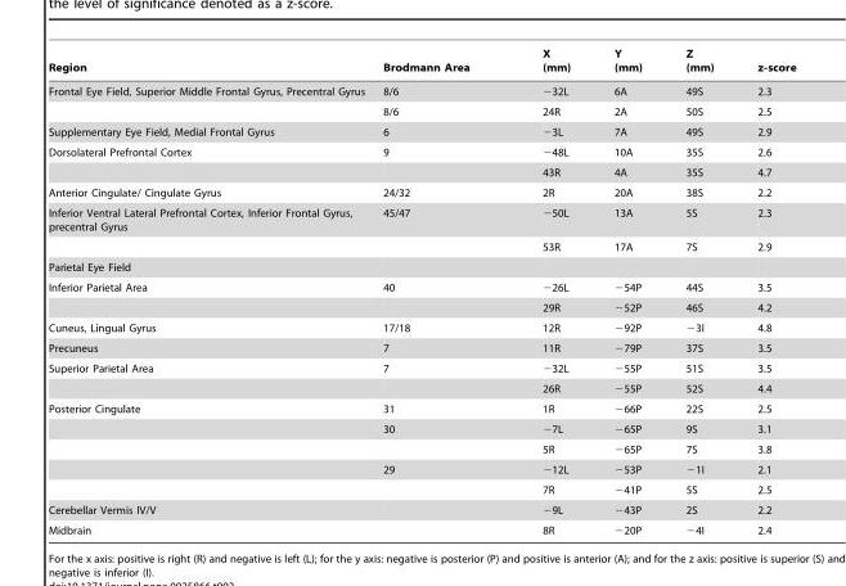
<table><thead><tr><td>Region</td><td>Brodmann Area</td><td>X (mm)</td><td>Y (mm)</td><td>Z (mm)</td><td>z-score</td></tr></thead><tbody><tr><td rowspan="2">Frontal Eye Field, Superior Middle Frontal Gyrus, Precentral Gyrus</td><td>8/6</td><td>−32L</td><td>6A</td><td>49S</td><td>2.3</td></tr><tr><td>8/6</td><td>24R</td><td>2A</td><td>50S</td><td>2.5</td></tr><tr><td>Supplementary Eye Field, Medial Frontal Gyrus</td><td>6</td><td>−3L</td><td>7A</td><td>49S</td><td>2.9</td></tr><tr><td rowspan="2">Dorsolateral Prefrontal Cortex</td><td>9</td><td>−48L</td><td>10A</td><td>35S</td><td>2.6</td></tr><tr><td></td><td>43R</td><td>4A</td><td>35S</td><td>4.7</td></tr><tr><td>Anterior Cingulate/ Cingulate Gyrus</td><td>24/32</td><td>2R</td><td>20A</td><td>38S</td><td>2.2</td></tr><tr><td rowspan="2">Inferior Ventral Lateral Prefrontal Cortex, Inferior Frontal Gyrus, precentral Gyrus</td><td>45/47</td><td>−50L</td><td>13A</td><td>5S</td><td>2.3</td></tr><tr><td></td><td>53R</td><td>17A</td><td>7S</td><td>2.9</td></tr><tr><td colspan="6">Parietal Eye Field</td></tr><tr><td rowspan="2">Inferior Parietal Area</td><td>40</td><td>−26L</td><td>−54P</td><td>44S</td><td>3.5</td></tr><tr><td></td><td>29R</td><td>−52P</td><td>46S</td><td>4.2</td></tr><tr><td>Cuneus, Lingual Gyrus</td><td>17/18</td><td>12R</td><td>−92P</td><td>−3I</td><td>4.8</td></tr><tr><td>Precuneus</td><td>7</td><td>11R</td><td>−79P</td><td>37S</td><td>3.5</td></tr><tr><td rowspan="2">Superior Parietal Area</td><td>7</td><td>−32L</td><td>−55P</td><td>51S</td><td>3.5</td></tr><tr><td></td><td>26R</td><td>−55P</td><td>52S</td><td>4.4</td></tr><tr><td rowspan="5">Posterior Cingulate</td><td>31</td><td>1R</td><td>−66P</td><td>22S</td><td>2.5</td></tr><tr><td>30</td><td>−7L</td><td>−65P</td><td>9S</td><td>3.1</td></tr><tr><td></td><td>5R</td><td>−65P</td><td>7S</td><td>3.8</td></tr><tr><td>29</td><td>−12L</td><td>−53P</td><td>−1I</td><td>2.1</td></tr><tr><td></td><td>7R</td><td>−41P</td><td>5S</td><td>2.5</td></tr><tr><td>Cerebellar Vermis IV/V</td><td></td><td>−9L</td><td>−43P</td><td>2S</td><td>2.2</td></tr><tr><td>Midbrain</td><td></td><td>8R</td><td>−20P</td><td>−4I</td><td>2.4</td></tr></tbody></table>